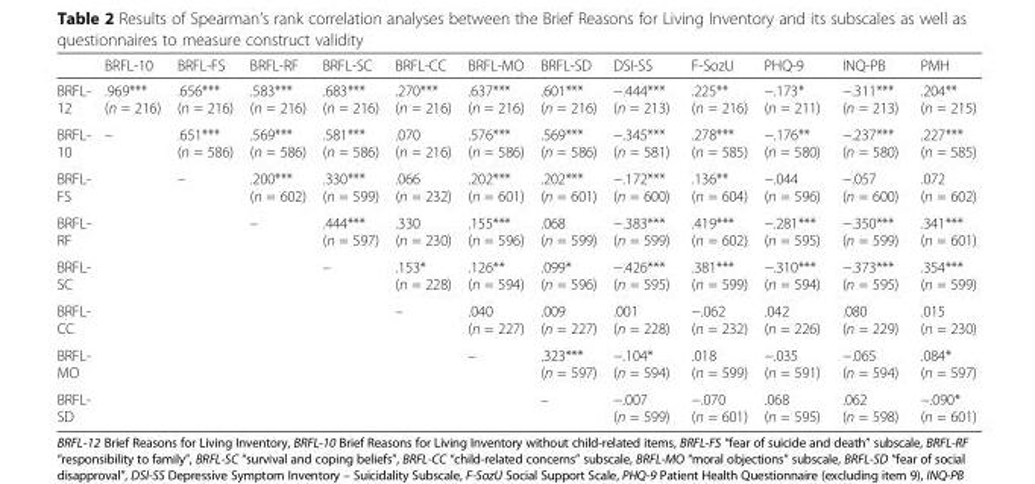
<table><thead><tr><td></td><td>BRFL-10</td><td>BRFL-FS</td><td>BRFL-RF</td><td>BRFL-SC</td><td>BRFL-CC</td><td>BRFL-MO</td><td>BRFL-SD</td><td>DSI-SS</td><td>F-SozU</td><td>PHQ-9</td><td>INQ-PB</td><td>PMH</td></tr></thead><tbody><tr><td>BRFL- 12</td><td>.969*** (n = 216)</td><td>.656*** (n = 216)</td><td>.583*** (n = 216)</td><td>.683*** (n = 216)</td><td>.270*** (n = 216)</td><td>.637*** (n = 216)</td><td>.601*** (n = 216)</td><td>−.444*** (n = 213)</td><td>.225** (n = 216)</td><td>−.173* (n = 211)</td><td>−.311*** (n = 213)</td><td>.204** (n = 215)</td></tr><tr><td>BRFL- 10</td><td>–</td><td>.651*** (n = 586)</td><td>.569*** (n = 586)</td><td>.581*** (n = 586)</td><td>.070 (n = 216)</td><td>.576*** (n = 586)</td><td>.569*** (n = 586)</td><td>−.345*** (n = 581)</td><td>.278*** (n = 585)</td><td>−.176** (n = 580)</td><td>−.237*** (n = 580)</td><td>.227*** (n = 585)</td></tr><tr><td>BRFL- FS</td><td></td><td>–</td><td>.200*** (n = 602)</td><td>.330*** (n = 599)</td><td>.066 (n = 232)</td><td>.202*** (n = 601)</td><td>.202*** (n = 601)</td><td>−.172*** (n = 600)</td><td>.136** (n = 604)</td><td>−.044 (n = 596)</td><td>−.057 (n = 600)</td><td>.072 (n = 602)</td></tr><tr><td>BRFL- RF</td><td></td><td></td><td>–</td><td>.444*** (n = 597)</td><td>.330 (n = 230)</td><td>.155*** (n = 596)</td><td>.068 (n = 599)</td><td>−.383*** (n = 599)</td><td>.419*** (n = 602)</td><td>−.281*** (n = 595)</td><td>−.350*** (n = 599)</td><td>.341*** (n = 601)</td></tr><tr><td>BRFL- SC</td><td></td><td></td><td></td><td>–</td><td>.153* (n = 228)</td><td>.126** (n = 594)</td><td>.099* (n = 596)</td><td>−.426*** (n = 595)</td><td>.381*** (n = 599)</td><td>−.310*** (n = 594)</td><td>−.373*** (n = 595)</td><td>.354*** (n = 599)</td></tr><tr><td>BRFL- CC</td><td></td><td></td><td></td><td></td><td>–</td><td>.040 (n = 227)</td><td>.009 (n = 227)</td><td>.001 (n = 228)</td><td>−.062 (n = 232)</td><td>.042 (n = 226)</td><td>.080 (n = 229)</td><td>.015 (n = 230)</td></tr><tr><td>BRFL- MO</td><td></td><td></td><td></td><td></td><td></td><td>–</td><td>.323*** (n = 597)</td><td>−.104* (n = 594)</td><td>.018 (n = 599)</td><td>−.035 (n = 591)</td><td>−.065 (n = 594)</td><td>.084* (n = 597)</td></tr><tr><td>BRFL- SD</td><td></td><td></td><td></td><td></td><td></td><td></td><td>–</td><td>−.007 (n = 599)</td><td>−.070 (n = 601)</td><td>.068 (n = 595)</td><td>.062 (n = 598)</td><td>−.090* (n = 601)</td></tr></tbody></table>